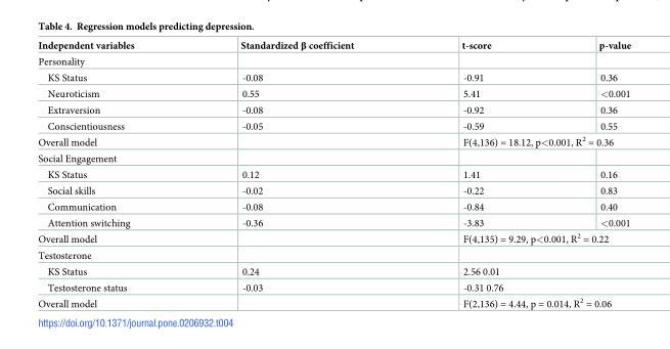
<table><thead><tr><td>Independent variables</td><td>Standardized β coefficient</td><td>t-score</td><td>p-value</td></tr></thead><tbody><tr><td colspan="4">Personality</td></tr><tr><td>KS Status</td><td>-0.08</td><td>-0.91</td><td>0.36</td></tr><tr><td>Neuroticism</td><td>0.55</td><td>5.41</td><td>&lt;0.001</td></tr><tr><td>Extraversion</td><td>-0.08</td><td>-0.92</td><td>0.36</td></tr><tr><td>Conscientiousness</td><td>-0.05</td><td>-0.59</td><td>0.55</td></tr><tr><td>Overall model</td><td></td><td colspan="2">F(4,136) = 18.12, p&lt;0.001, R<sup>2</sup> = 0.36</td></tr><tr><td colspan="4">Social Engagement</td></tr><tr><td>KS Status</td><td>0.12</td><td>1.41</td><td>0.16</td></tr><tr><td>Social skills</td><td>-0.02</td><td>-0.22</td><td>0.83</td></tr><tr><td>Communication</td><td>-0.08</td><td>-0.84</td><td>0.40</td></tr><tr><td>Attention switching</td><td>-0.36</td><td>-3.83</td><td>&lt;0.001</td></tr><tr><td>Overall model</td><td></td><td colspan="2">F(4,135) = 9.29, p&lt;0.001, R<sup>2</sup> = 0.22</td></tr><tr><td colspan="4">Testosterone</td></tr><tr><td>KS Status</td><td>0.24</td><td colspan="2">2.56 0.01</td></tr><tr><td>Testosterone status</td><td>-0.03</td><td colspan="2">-0.31 0.76</td></tr><tr><td>Overall model</td><td></td><td colspan="2">F(2,136) = 4.44, p = 0.014, R<sup>2</sup> = 0.06</td></tr></tbody></table>